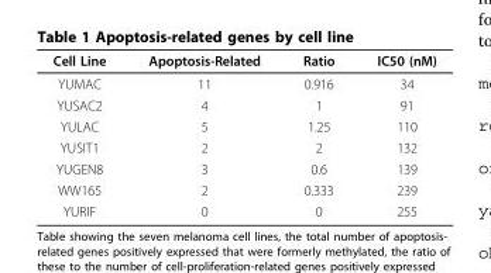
<table><thead><tr><td>Cell Line</td><td>Apoptosis-Related</td><td>Ratio</td><td>IC50 (nM)</td></tr></thead><tbody><tr><td>YUMAC</td><td>11</td><td>0.916</td><td>34</td></tr><tr><td>YUSAC2</td><td>4</td><td>1</td><td>91</td></tr><tr><td>YULAC</td><td>5</td><td>1.25</td><td>110</td></tr><tr><td>YUSIT1</td><td>2</td><td>2</td><td>132</td></tr><tr><td>YUGEN8</td><td>3</td><td>0.6</td><td>139</td></tr><tr><td>WW165</td><td>2</td><td>0.333</td><td>239</td></tr><tr><td>YURIF</td><td>0</td><td>0</td><td>255</td></tr></tbody></table>